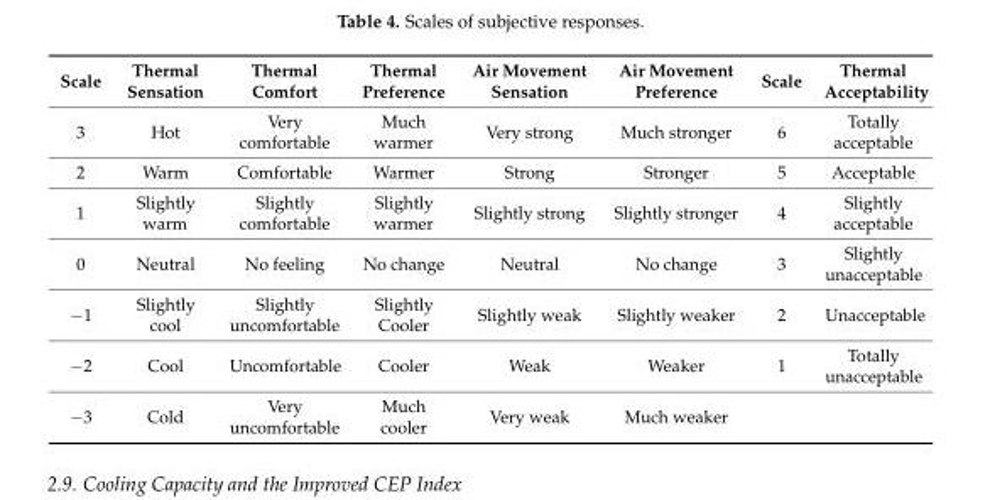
<table><thead><tr><td>Scale</td><td>Thermal Sensation</td><td>Thermal Comfort</td><td>Thermal Preference</td><td>Air Movement Sensation</td><td>Air Movement Preference</td><td>Scale</td><td>Thermal Acceptability</td></tr></thead><tbody><tr><td>3</td><td>Hot</td><td>Very comfortable</td><td>Much warmer</td><td>Very strong</td><td>Much stronger</td><td>6</td><td>Totally acceptable</td></tr><tr><td>2</td><td>Warm</td><td>Comfortable</td><td>Warmer</td><td>Strong</td><td>Stronger</td><td>5</td><td>Acceptable</td></tr><tr><td>1</td><td>Slightly warm</td><td>Slightly comfortable</td><td>Slightly warmer</td><td>Slightly strong</td><td>Slightly stronger</td><td>4</td><td>Slightly acceptable</td></tr><tr><td>0</td><td>Neutral</td><td>No feeling</td><td>No change</td><td>Neutral</td><td>No change</td><td>3</td><td>Slightly unacceptable</td></tr><tr><td>−1</td><td>Slightly cool</td><td>Slightly uncomfortable</td><td>Slightly Cooler</td><td>Slightly weak</td><td>Slightly weaker</td><td>2</td><td>Unacceptable</td></tr><tr><td>−2</td><td>Cool</td><td>Uncomfortable</td><td>Cooler</td><td>Weak</td><td>Weaker</td><td>1</td><td>Totally unacceptable</td></tr><tr><td>−3</td><td>Cold</td><td>Very uncomfortable</td><td>Much cooler</td><td>Very weak</td><td>Much weaker</td><td></td><td></td></tr></tbody></table>